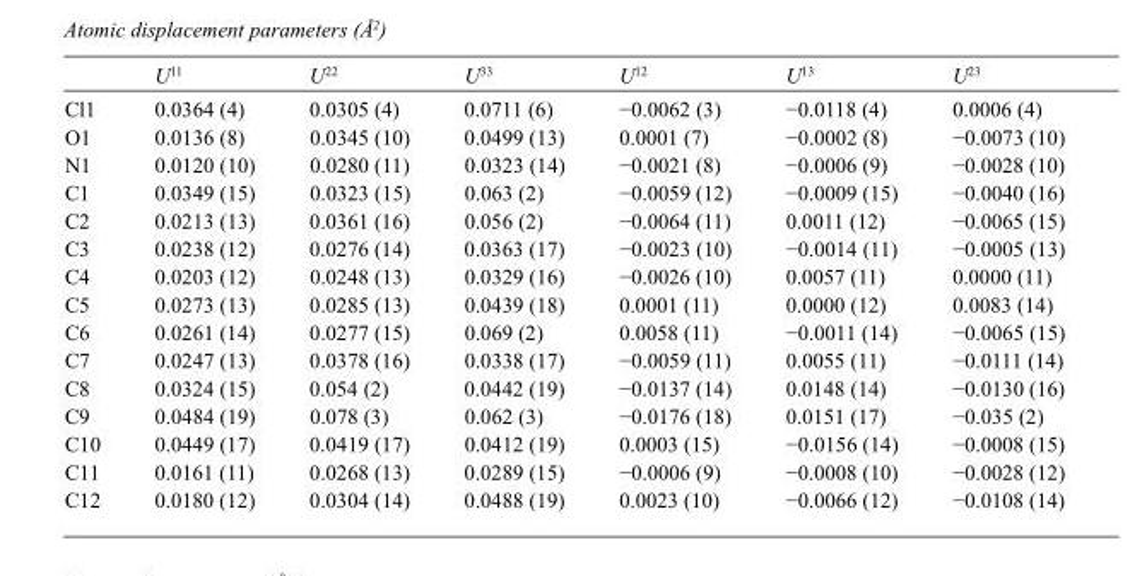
<table><thead><tr><td></td><td>U<sup>11</sup></td><td>U<sup>22</sup></td><td>U<sup>33</sup></td><td>U<sup>12</sup></td><td>U<sup>13</sup></td><td>U<sup>23</sup></td></tr></thead><tbody><tr><td>Cl1</td><td>0.0364 (4)</td><td>0.0305 (4)</td><td>0.0711 (6)</td><td>−0.0062 (3)</td><td>−0.0118 (4)</td><td>0.0006 (4)</td></tr><tr><td>O1</td><td>0.0136 (8)</td><td>0.0345 (10)</td><td>0.0499 (13)</td><td>0.0001 (7)</td><td>−0.0002 (8)</td><td>−0.0073 (10)</td></tr><tr><td>N1</td><td>0.0120 (10)</td><td>0.0280 (11)</td><td>0.0323 (14)</td><td>−0.0021 (8)</td><td>−0.0006 (9)</td><td>−0.0028 (10)</td></tr><tr><td>C1</td><td>0.0349 (15)</td><td>0.0323 (15)</td><td>0.063 (2)</td><td>−0.0059 (12)</td><td>−0.0009 (15)</td><td>−0.0040 (16)</td></tr><tr><td>C2</td><td>0.0213 (13)</td><td>0.0361 (16)</td><td>0.056 (2)</td><td>−0.0064 (11)</td><td>0.0011 (12)</td><td>−0.0065 (15)</td></tr><tr><td>C3</td><td>0.0238 (12)</td><td>0.0276 (14)</td><td>0.0363 (17)</td><td>−0.0023 (10)</td><td>−0.0014 (11)</td><td>−0.0005 (13)</td></tr><tr><td>C4</td><td>0.0203 (12)</td><td>0.0248 (13)</td><td>0.0329 (16)</td><td>−0.0026 (10)</td><td>0.0057 (11)</td><td>0.0000 (11)</td></tr><tr><td>C5</td><td>0.0273 (13)</td><td>0.0285 (13)</td><td>0.0439 (18)</td><td>0.0001 (11)</td><td>0.0000 (12)</td><td>0.0083 (14)</td></tr><tr><td>C6</td><td>0.0261 (14)</td><td>0.0277 (15)</td><td>0.069 (2)</td><td>0.0058 (11)</td><td>−0.0011 (14)</td><td>−0.0065 (15)</td></tr><tr><td>C7</td><td>0.0247 (13)</td><td>0.0378 (16)</td><td>0.0338 (17)</td><td>−0.0059 (11)</td><td>0.0055 (11)</td><td>−0.0111 (14)</td></tr><tr><td>C8</td><td>0.0324 (15)</td><td>0.054 (2)</td><td>0.0442 (19)</td><td>−0.0137 (14)</td><td>0.0148 (14)</td><td>−0.0130 (16)</td></tr><tr><td>C9</td><td>0.0484 (19)</td><td>0.078 (3)</td><td>0.062 (3)</td><td>−0.0176 (18)</td><td>0.0151 (17)</td><td>−0.035 (2)</td></tr><tr><td>C10</td><td>0.0449 (17)</td><td>0.0419 (17)</td><td>0.0412 (19)</td><td>0.0003 (15)</td><td>−0.0156 (14)</td><td>−0.0008 (15)</td></tr><tr><td>C11</td><td>0.0161 (11)</td><td>0.0268 (13)</td><td>0.0289 (15)</td><td>−0.0006 (9)</td><td>−0.0008 (10)</td><td>−0.0028 (12)</td></tr><tr><td>C12</td><td>0.0180 (12)</td><td>0.0304 (14)</td><td>0.0488 (19)</td><td>0.0023 (10)</td><td>−0.0066 (12)</td><td>−0.0108 (14)</td></tr></tbody></table>